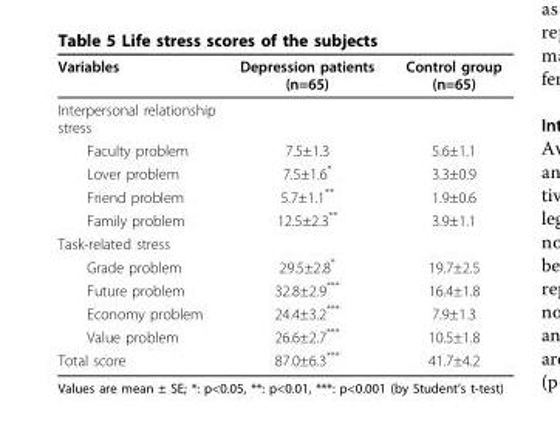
<table><thead><tr><td>Variables</td><td>Depression patients (n=65)</td><td>Control group (n=65)</td></tr></thead><tbody><tr><td colspan="3">Interpersonal relationship stress</td></tr><tr><td>Faculty problem</td><td>7.5±1.3</td><td>5.6±1.1</td></tr><tr><td>Lover problem</td><td>7.5±1.6*</td><td>3.3±0.9</td></tr><tr><td>Friend problem</td><td>5.7±1.1**</td><td>1.9±0.6</td></tr><tr><td>Family problem</td><td>12.5±2.3**</td><td>3.9±1.1</td></tr><tr><td colspan="3">Task-related stress</td></tr><tr><td>Grade problem</td><td>29.5±2.8*</td><td>19.7±2.5</td></tr><tr><td>Future problem</td><td>32.8±2.9***</td><td>16.4±1.8</td></tr><tr><td>Economy problem</td><td>24.4±3.2***</td><td>7.9±1.3</td></tr><tr><td>Value problem</td><td>26.6±2.7***</td><td>10.5±1.8</td></tr><tr><td>Total score</td><td>87.0±6.3***</td><td>41.7±4.2</td></tr></tbody></table>